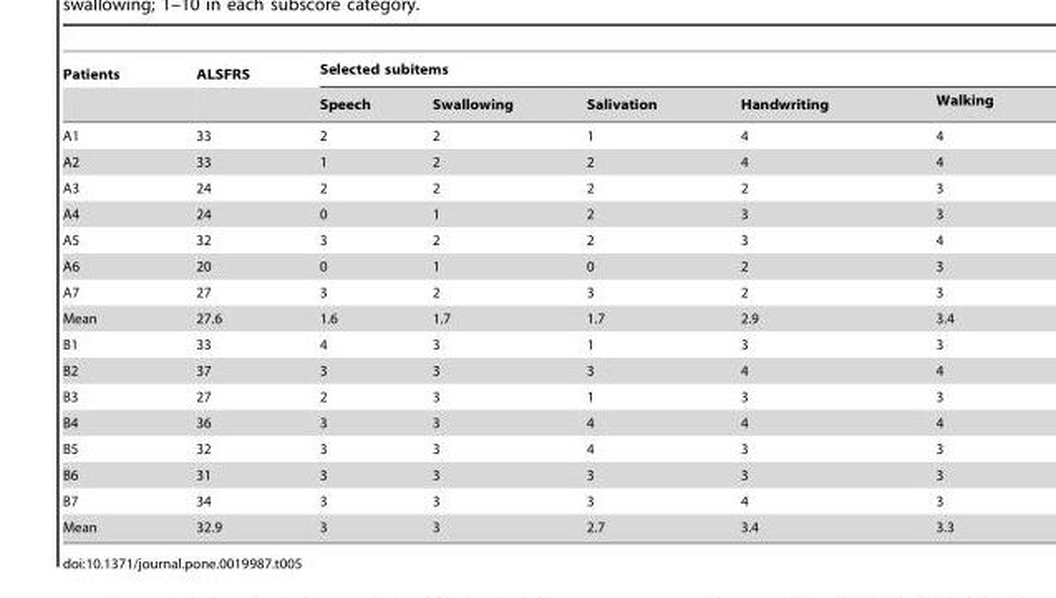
<table><thead><tr><td rowspan="2">Patients</td><td rowspan="2">ALSFRS</td><td colspan="5">Selected subitems</td></tr><tr><td>Speech</td><td>Swallowing</td><td>Salivation</td><td>Handwriting</td><td>Walking</td></tr></thead><tbody><tr><td>A1</td><td>33</td><td>2</td><td>2</td><td>1</td><td>4</td><td>4</td></tr><tr><td>A2</td><td>33</td><td>1</td><td>2</td><td>2</td><td>4</td><td>4</td></tr><tr><td>A3</td><td>24</td><td>2</td><td>2</td><td>2</td><td>2</td><td>3</td></tr><tr><td>A4</td><td>24</td><td>0</td><td>1</td><td>2</td><td>3</td><td>3</td></tr><tr><td>A5</td><td>32</td><td>3</td><td>2</td><td>2</td><td>3</td><td>4</td></tr><tr><td>A6</td><td>20</td><td>0</td><td>1</td><td>0</td><td>2</td><td>3</td></tr><tr><td>A7</td><td>27</td><td>3</td><td>2</td><td>3</td><td>2</td><td>3</td></tr><tr><td>Mean</td><td>27.6</td><td>1.6</td><td>1.7</td><td>1.7</td><td>2.9</td><td>3.4</td></tr><tr><td>B1</td><td>33</td><td>4</td><td>3</td><td>1</td><td>3</td><td>3</td></tr><tr><td>B2</td><td>37</td><td>3</td><td>3</td><td>3</td><td>4</td><td>4</td></tr><tr><td>B3</td><td>27</td><td>2</td><td>3</td><td>1</td><td>3</td><td>3</td></tr><tr><td>B4</td><td>36</td><td>3</td><td>3</td><td>4</td><td>4</td><td>4</td></tr><tr><td>B5</td><td>32</td><td>3</td><td>3</td><td>4</td><td>3</td><td>3</td></tr><tr><td>B6</td><td>31</td><td>3</td><td>3</td><td>3</td><td>3</td><td>3</td></tr><tr><td>B7</td><td>34</td><td>3</td><td>3</td><td>3</td><td>4</td><td>3</td></tr><tr><td>Mean</td><td>32.9</td><td>3</td><td>3</td><td>2.7</td><td>3.4</td><td>3.3</td></tr></tbody></table>